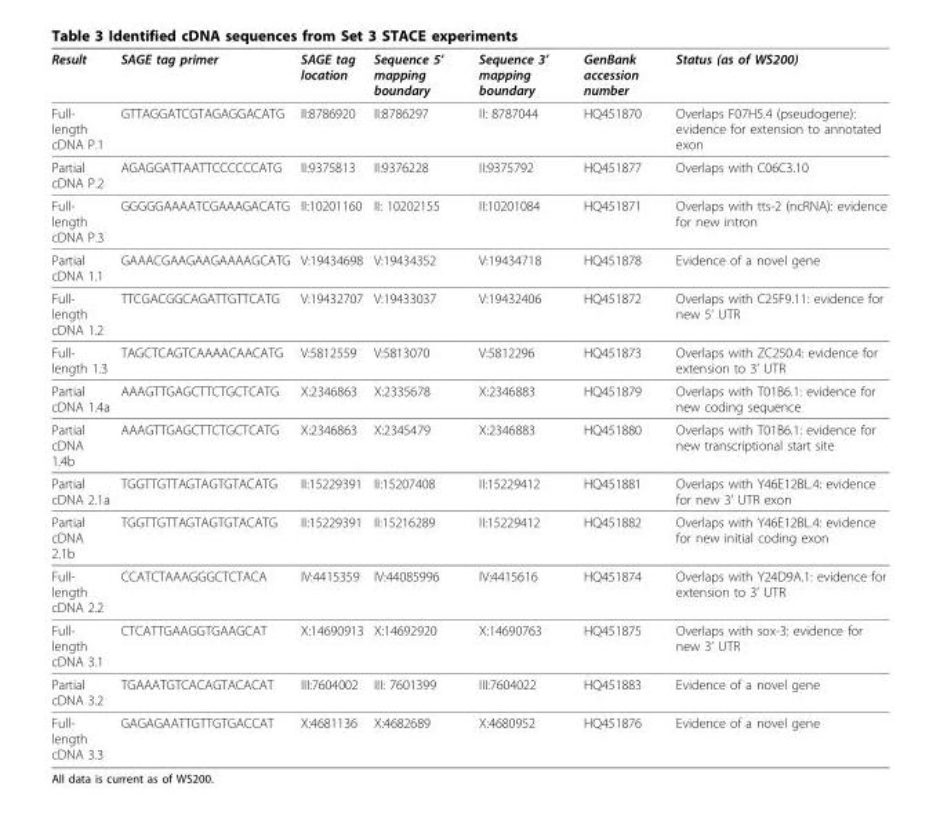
<table><thead><tr><td>Result</td><td>SAGE tag primer</td><td>SAGE tag location</td><td>Sequence 5’ mapping boundary</td><td>Sequence 3’ mapping boundary</td><td>GenBank accession number</td><td>Status (as of WS200)</td></tr></thead><tbody><tr><td>Full- length cDNA P.1</td><td>GTTAGGATCGTAGAGGACATG</td><td>II:8786920</td><td>II:8786297</td><td>II: 8787044</td><td>HQ451870</td><td>Overlaps F07H5.4 (pseudogene): evidence for extension to annotated exon</td></tr><tr><td>Partial cDNA P.2</td><td>AGAGGATTAATTCCCCCCATG</td><td>II:9375813</td><td>II:9376228</td><td>II:9375792</td><td>HQ451877</td><td>Overlaps with C06C3.10</td></tr><tr><td>Full- length cDNA P.3</td><td>GGGGGAAAATCGAAAGACATG</td><td>II:10201160</td><td>II: 10202155</td><td>II:10201084</td><td>HQ451871</td><td>Overlaps with tts-2 (ncRNA): evidence for new intron</td></tr><tr><td>Partial cDNA 1.1</td><td>GAAACGAAGAAGAAAAGCATG</td><td>V:19434698</td><td>V:19434352</td><td>V:19434718</td><td>HQ451878</td><td>Evidence of a novel gene</td></tr><tr><td>Full- length cDNA 1.2</td><td>TTCGACGGCAGATTGTTCATG</td><td>V:19432707</td><td>V:19433037</td><td>V:19432406</td><td>HQ451872</td><td>Overlaps with C25F9.11: evidence for new 5’ UTR</td></tr><tr><td>Full- length 1.3</td><td>TAGCTCAGTCAAAACAACATG</td><td>V:5812559</td><td>V:5813070</td><td>V:5812296</td><td>HQ451873</td><td>Overlaps with ZC250.4: evidence for extension to 3’ UTR</td></tr><tr><td>Partial cDNA 1.4a</td><td>AAAGTTGAGCTTCTGCTCATG</td><td>X:2346863</td><td>X:2335678</td><td>X:2346883</td><td>HQ451879</td><td>Overlaps with T01B6.1: evidence for new coding sequence</td></tr><tr><td>Partial cDNA 1.4b</td><td>AAAGTTGAGCTTCTGCTCATG</td><td>X:2346863</td><td>X:2345479</td><td>X:2346883</td><td>HQ451880</td><td>Overlaps with T01B6.1: evidence for new transcriptional start site</td></tr><tr><td>Partial cDNA 2.1a</td><td>TGGTTGTTAGTAGTGTACATG</td><td>II:15229391</td><td>II:15207408</td><td>II:15229412</td><td>HQ451881</td><td>Overlaps with Y46E12BL.4: evidence for new 3’ UTR exon</td></tr><tr><td>Partial cDNA 2.1b</td><td>TGGTTGTTAGTAGTGTACATG</td><td>II:15229391</td><td>II:15216289</td><td>II:15229412</td><td>HQ451882</td><td>Overlaps with Y46E12BL.4: evidence for new initial coding exon</td></tr><tr><td>Full- length cDNA 2.2</td><td>CCATCTAAAGGGCTCTACA</td><td>IV:4415359</td><td>IV:44085996</td><td>IV:4415616</td><td>HQ451874</td><td>Overlaps with Y24D9A.1: evidence for extension to 3’ UTR</td></tr><tr><td>Full- length cDNA 3.1</td><td>CTCATTGAAGGTGAAGCAT</td><td>X:14690913</td><td>X:14692920</td><td>X:14690763</td><td>HQ451875</td><td>Overlaps with sox-3: evidence for new 3’ UTR</td></tr><tr><td>Partial cDNA 3.2</td><td>TGAAATGTCACAGTACACAT</td><td>III:7604002</td><td>III: 7601399</td><td>III:7604022</td><td>HQ451883</td><td>Evidence of a novel gene</td></tr><tr><td>Full- length cDNA 3.3</td><td>GAGAGAATTGTTGTGACCAT</td><td>X:4681136</td><td>X:4682689</td><td>X:4680952</td><td>HQ451876</td><td>Evidence of a novel gene</td></tr></tbody></table>